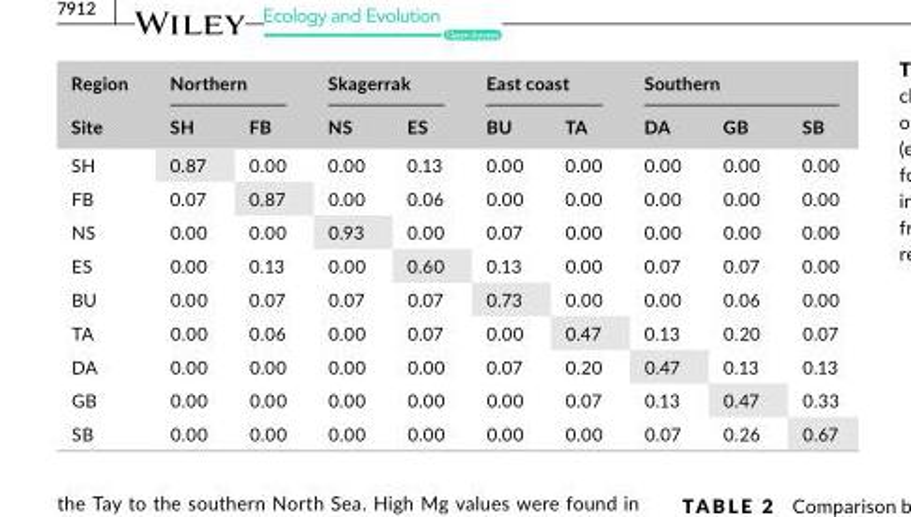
<table><thead><tr><td rowspan="2">Region Site</td><td colspan="2">Northern</td><td colspan="2">Skagerrak</td><td colspan="2">East coast</td><td colspan="3">Southern</td></tr><tr><td>SH</td><td>FB</td><td>NS</td><td>ES</td><td>BU</td><td>TA</td><td>DA</td><td>GB</td><td>SB</td></tr></thead><tbody><tr><td>SH</td><td>0.87</td><td>0.00</td><td>0.00</td><td>0.13</td><td>0.00</td><td>0.00</td><td>0.00</td><td>0.00</td><td>0.00</td></tr><tr><td>FB</td><td>0.07</td><td>0.87</td><td>0.00</td><td>0.06</td><td>0.00</td><td>0.00</td><td>0.00</td><td>0.00</td><td>0.00</td></tr><tr><td>NS</td><td>0.00</td><td>0.00</td><td>0.93</td><td>0.00</td><td>0.07</td><td>0.00</td><td>0.00</td><td>0.00</td><td>0.00</td></tr><tr><td>ES</td><td>0.00</td><td>0.13</td><td>0.00</td><td>0.60</td><td>0.13</td><td>0.00</td><td>0.07</td><td>0.07</td><td>0.00</td></tr><tr><td>BU</td><td>0.00</td><td>0.07</td><td>0.07</td><td>0.07</td><td>0.73</td><td>0.00</td><td>0.00</td><td>0.06</td><td>0.00</td></tr><tr><td>TA</td><td>0.00</td><td>0.06</td><td>0.00</td><td>0.07</td><td>0.00</td><td>0.47</td><td>0.13</td><td>0.20</td><td>0.07</td></tr><tr><td>DA</td><td>0.00</td><td>0.00</td><td>0.00</td><td>0.00</td><td>0.07</td><td>0.20</td><td>0.47</td><td>0.13</td><td>0.13</td></tr><tr><td>GB</td><td>0.00</td><td>0.00</td><td>0.00</td><td>0.00</td><td>0.00</td><td>0.07</td><td>0.13</td><td>0.47</td><td>0.33</td></tr><tr><td>SB</td><td>0.00</td><td>0.00</td><td>0.00</td><td>0.00</td><td>0.00</td><td>0.00</td><td>0.07</td><td>0.26</td><td>0.67</td></tr></tbody></table>